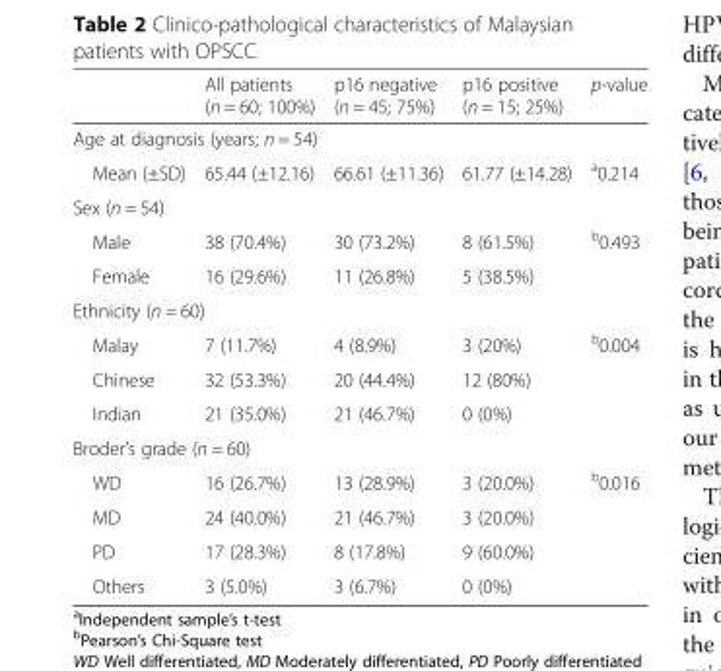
<table><thead><tr><td></td><td>All patients (n = 60; 100%)</td><td>p16 negative (n = 45; 75%)</td><td>p16 positive (n = 15; 25%)</td><td>p-value</td></tr></thead><tbody><tr><td colspan="5">Age at diagnosis (years; n = 54)</td></tr><tr><td>Mean (±SD)</td><td>65.44 (±12.16)</td><td>66.61 (±11.36)</td><td>61.77 (±14.28)</td><td><sup>a</sup>0.214</td></tr><tr><td colspan="5">Sex (n = 54)</td></tr><tr><td>Male</td><td>38 (70.4%)</td><td>30 (73.2%)</td><td>8 (61.5%)</td><td><sup>b</sup>0.493</td></tr><tr><td>Female</td><td>16 (29.6%)</td><td>11 (26.8%)</td><td>5 (38.5%)</td><td></td></tr><tr><td colspan="5">Ethnicity (n = 60)</td></tr><tr><td>Malay</td><td>7 (11.7%)</td><td>4 (8.9%)</td><td>3 (20%)</td><td><sup>b</sup>0.004</td></tr><tr><td>Chinese</td><td>32 (53.3%)</td><td>20 (44.4%)</td><td>12 (80%)</td><td></td></tr><tr><td>Indian</td><td>21 (35.0%)</td><td>21 (46.7%)</td><td>0 (0%)</td><td></td></tr><tr><td colspan="5">Broder’s grade (n = 60)</td></tr><tr><td>WD</td><td>16 (26.7%)</td><td>13 (28.9%)</td><td>3 (20.0%)</td><td><sup>b</sup>0.016</td></tr><tr><td>MD</td><td>24 (40.0%)</td><td>21 (46.7%)</td><td>3 (20.0%)</td><td></td></tr><tr><td>PD</td><td>17 (28.3%)</td><td>8 (17.8%)</td><td>9 (60.0%)</td><td></td></tr><tr><td>Others</td><td>3 (5.0%)</td><td>3 (6.7%)</td><td>0 (0%)</td><td></td></tr></tbody></table>